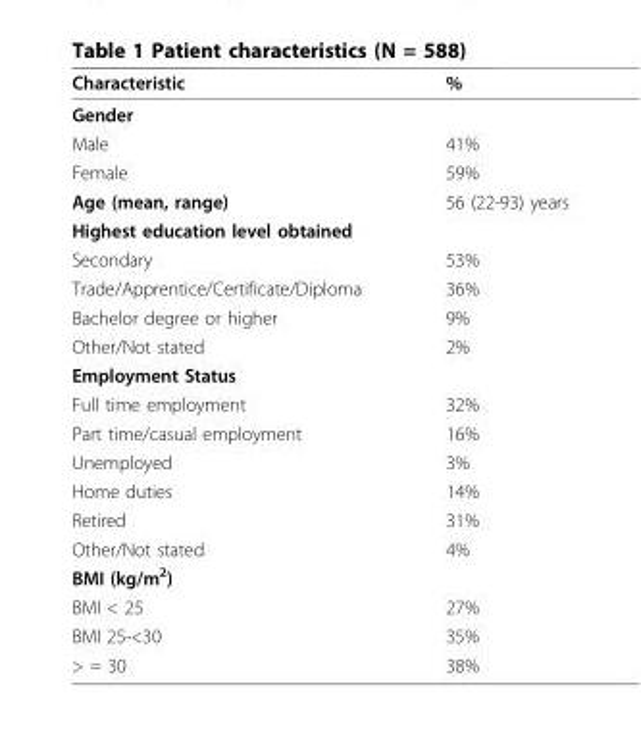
<table><thead><tr><td>Characteristic</td><td>%</td></tr></thead><tbody><tr><td colspan="2">Gender</td></tr><tr><td>Male</td><td>41%</td></tr><tr><td>Female</td><td>59%</td></tr><tr><td>Age (mean, range)</td><td>56 (22-93) years</td></tr><tr><td colspan="2">Highest education level obtained</td></tr><tr><td>Secondary</td><td>53%</td></tr><tr><td>Trade/Apprentice/Certificate/Diploma</td><td>36%</td></tr><tr><td>Bachelor degree or higher</td><td>9%</td></tr><tr><td>Other/Not stated</td><td>2%</td></tr><tr><td colspan="2">Employment Status</td></tr><tr><td>Full time employment</td><td>32%</td></tr><tr><td>Part time/casual employment</td><td>16%</td></tr><tr><td>Unemployed</td><td>3%</td></tr><tr><td>Home duties</td><td>14%</td></tr><tr><td>Retired</td><td>31%</td></tr><tr><td>Other/Not stated</td><td>4%</td></tr><tr><td colspan="2">BMI (kg/m<sup>2</sup>)</td></tr><tr><td>BMI &lt; 25</td><td>27%</td></tr><tr><td>BMI 25-&lt;30</td><td>35%</td></tr><tr><td>&gt; = 30</td><td>38%</td></tr></tbody></table>